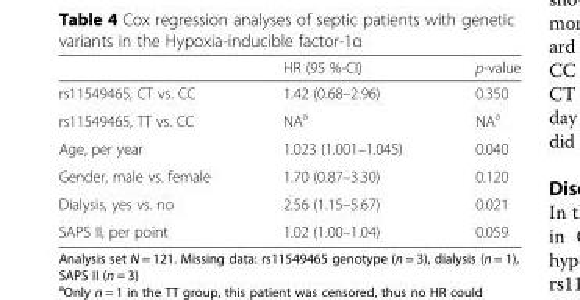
<table><thead><tr><td></td><td>HR (95 %-CI)</td><td>p-value</td></tr></thead><tbody><tr><td>rs11549465, CT vs. CC</td><td>1.42 (0.68–2.96)</td><td>0.350</td></tr><tr><td>rs11549465, TT vs. CC</td><td>NA<sup>a</sup></td><td>NA<sup>a</sup></td></tr><tr><td>Age, per year</td><td>1.023 (1.001–1.045)</td><td>0.040</td></tr><tr><td>Gender, male vs. female</td><td>1.70 (0.87–3.30)</td><td>0.120</td></tr><tr><td>Dialysis, yes vs. no</td><td>2.56 (1.15–5.67)</td><td>0.021</td></tr><tr><td>SAPS II, per point</td><td>1.02 (1.00–1.04)</td><td>0.059</td></tr></tbody></table>